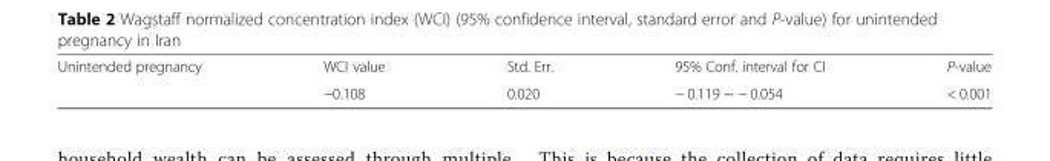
<table><tbody><tr><td rowspan="2">Unintended pregnancy</td><td>WCI value</td><td>Std. Err.</td><td>95% Conf. interval for CI</td><td>P-value</td></tr><tr><td>−0.108</td><td>0.020</td><td>− 0.119 ~ − 0.054</td><td>&lt; 0.001</td></tr></tbody></table>